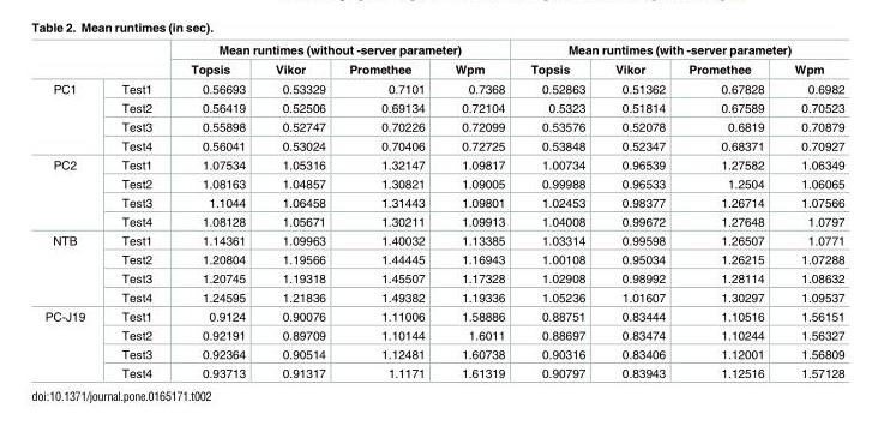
<table><thead><tr><td rowspan="2"></td><td rowspan="2"></td><td colspan="4">Mean runtimes (without -server parameter)</td><td colspan="4">Mean runtimes (with -server parameter)</td></tr><tr><td>Topsis</td><td>Vikor</td><td>Promethee</td><td>Wpm</td><td>Topsis</td><td>Vikor</td><td>Promethee</td><td>Wpm</td></tr></thead><tbody><tr><td rowspan="4">PC1</td><td>Test1</td><td>0.56693</td><td>0.53329</td><td>0.7101</td><td>0.7368</td><td>0.52863</td><td>0.51362</td><td>0.67828</td><td>0.6982</td></tr><tr><td>Test2</td><td>0.56419</td><td>0.52506</td><td>0.69134</td><td>0.72104</td><td>0.5323</td><td>0.51814</td><td>0.67589</td><td>0.70523</td></tr><tr><td>Test3</td><td>0.55898</td><td>0.52747</td><td>0.70226</td><td>0.72099</td><td>0.53576</td><td>0.52078</td><td>0.6819</td><td>0.70879</td></tr><tr><td>Test4</td><td>0.56041</td><td>0.53024</td><td>0.70406</td><td>0.72725</td><td>0.53848</td><td>0.52347</td><td>0.68371</td><td>0.70927</td></tr><tr><td rowspan="4">PC2</td><td>Test1</td><td>1.07534</td><td>1.05316</td><td>1.32147</td><td>1.09817</td><td>1.00734</td><td>0.96539</td><td>1.27582</td><td>1.06349</td></tr><tr><td>Test2</td><td>1.08163</td><td>1.04857</td><td>1.30821</td><td>1.09005</td><td>0.99988</td><td>0.96533</td><td>1.2504</td><td>1.06065</td></tr><tr><td>Test3</td><td>1.1044</td><td>1.06458</td><td>1.31443</td><td>1.09801</td><td>1.02453</td><td>0.98377</td><td>1.26714</td><td>1.07566</td></tr><tr><td>Test4</td><td>1.08128</td><td>1.05671</td><td>1.30211</td><td>1.09913</td><td>1.04008</td><td>0.99672</td><td>1.27648</td><td>1.0797</td></tr><tr><td rowspan="4">NTB</td><td>Test1</td><td>1.14361</td><td>1.09963</td><td>1.40032</td><td>1.13385</td><td>1.03314</td><td>0.99598</td><td>1.26507</td><td>1.0771</td></tr><tr><td>Test2</td><td>1.20804</td><td>1.19566</td><td>1.44445</td><td>1.16943</td><td>1.00108</td><td>0.95034</td><td>1.26215</td><td>1.07288</td></tr><tr><td>Test3</td><td>1.20745</td><td>1.19318</td><td>1.45507</td><td>1.17328</td><td>1.02908</td><td>0.98992</td><td>1.28114</td><td>1.08632</td></tr><tr><td>Test4</td><td>1.24595</td><td>1.21836</td><td>1.49382</td><td>1.19336</td><td>1.05236</td><td>1.01607</td><td>1.30297</td><td>1.09537</td></tr><tr><td rowspan="4">PC-J19</td><td>Test1</td><td>0.9124</td><td>0.90076</td><td>1.11006</td><td>1.58886</td><td>0.88751</td><td>0.83444</td><td>1.10516</td><td>1.56151</td></tr><tr><td>Test2</td><td>0.92191</td><td>0.89709</td><td>1.10144</td><td>1.6011</td><td>0.88697</td><td>0.83474</td><td>1.10244</td><td>1.56327</td></tr><tr><td>Test3</td><td>0.92364</td><td>0.90514</td><td>1.12481</td><td>1.60738</td><td>0.90316</td><td>0.83406</td><td>1.12001</td><td>1.56809</td></tr><tr><td>Test4</td><td>0.93713</td><td>0.91317</td><td>1.1171</td><td>1.61319</td><td>0.90797</td><td>0.83943</td><td>1.12516</td><td>1.57128</td></tr></tbody></table>